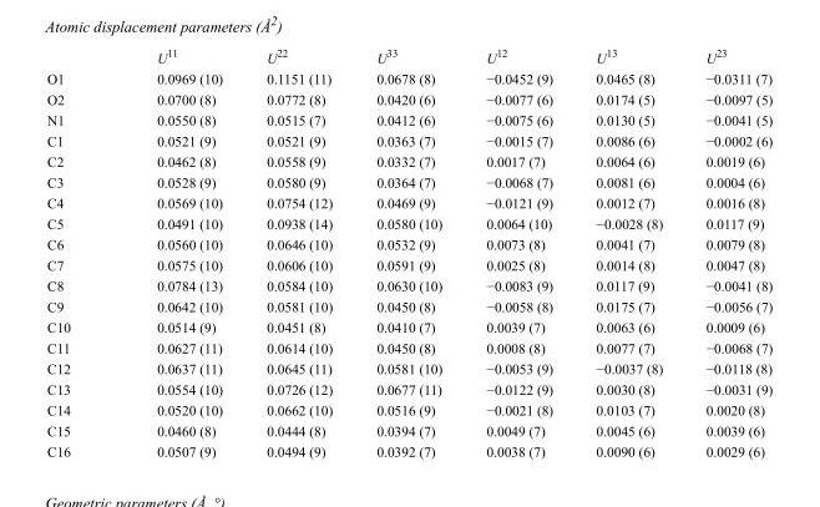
<table><thead><tr><td></td><td>U<sup>11</sup></td><td>U<sup>22</sup></td><td>U<sup>33</sup></td><td>U<sup>12</sup></td><td>U<sup>13</sup></td><td>U<sup>23</sup></td></tr></thead><tbody><tr><td>O1</td><td>0.0969 (10)</td><td>0.1151 (11)</td><td>0.0678 (8)</td><td>−0.0452 (9)</td><td>0.0465 (8)</td><td>−0.0311 (7)</td></tr><tr><td>O2</td><td>0.0700 (8)</td><td>0.0772 (8)</td><td>0.0420 (6)</td><td>−0.0077 (6)</td><td>0.0174 (5)</td><td>−0.0097 (5)</td></tr><tr><td>N1</td><td>0.0550 (8)</td><td>0.0515 (7)</td><td>0.0412 (6)</td><td>−0.0075 (6)</td><td>0.0130 (5)</td><td>−0.0041 (5)</td></tr><tr><td>C1</td><td>0.0521 (9)</td><td>0.0521 (9)</td><td>0.0363 (7)</td><td>−0.0015 (7)</td><td>0.0086 (6)</td><td>−0.0002 (6)</td></tr><tr><td>C2</td><td>0.0462 (8)</td><td>0.0558 (9)</td><td>0.0332 (7)</td><td>0.0017 (7)</td><td>0.0064 (6)</td><td>0.0019 (6)</td></tr><tr><td>C3</td><td>0.0528 (9)</td><td>0.0580 (9)</td><td>0.0364 (7)</td><td>−0.0068 (7)</td><td>0.0081 (6)</td><td>0.0004 (6)</td></tr><tr><td>C4</td><td>0.0569 (10)</td><td>0.0754 (12)</td><td>0.0469 (9)</td><td>−0.0121 (9)</td><td>0.0012 (7)</td><td>0.0016 (8)</td></tr><tr><td>C5</td><td>0.0491 (10)</td><td>0.0938 (14)</td><td>0.0580 (10)</td><td>0.0064 (10)</td><td>−0.0028 (8)</td><td>0.0117 (9)</td></tr><tr><td>C6</td><td>0.0560 (10)</td><td>0.0646 (10)</td><td>0.0532 (9)</td><td>0.0073 (8)</td><td>0.0041 (7)</td><td>0.0079 (8)</td></tr><tr><td>C7</td><td>0.0575 (10)</td><td>0.0606 (10)</td><td>0.0591 (9)</td><td>0.0025 (8)</td><td>0.0014 (8)</td><td>0.0047 (8)</td></tr><tr><td>C8</td><td>0.0784 (13)</td><td>0.0584 (10)</td><td>0.0630 (10)</td><td>−0.0083 (9)</td><td>0.0117 (9)</td><td>−0.0041 (8)</td></tr><tr><td>C9</td><td>0.0642 (10)</td><td>0.0581 (10)</td><td>0.0450 (8)</td><td>−0.0058 (8)</td><td>0.0175 (7)</td><td>−0.0056 (7)</td></tr><tr><td>C10</td><td>0.0514 (9)</td><td>0.0451 (8)</td><td>0.0410 (7)</td><td>0.0039 (7)</td><td>0.0063 (6)</td><td>0.0009 (6)</td></tr><tr><td>C11</td><td>0.0627 (11)</td><td>0.0614 (10)</td><td>0.0450 (8)</td><td>0.0008 (8)</td><td>0.0077 (7)</td><td>−0.0068 (7)</td></tr><tr><td>C12</td><td>0.0637 (11)</td><td>0.0645 (11)</td><td>0.0581 (10)</td><td>−0.0053 (9)</td><td>−0.0037 (8)</td><td>−0.0118 (8)</td></tr><tr><td>C13</td><td>0.0554 (10)</td><td>0.0726 (12)</td><td>0.0677 (11)</td><td>−0.0122 (9)</td><td>0.0030 (8)</td><td>−0.0031 (9)</td></tr><tr><td>C14</td><td>0.0520 (10)</td><td>0.0662 (10)</td><td>0.0516 (9)</td><td>−0.0021 (8)</td><td>0.0103 (7)</td><td>0.0020 (8)</td></tr><tr><td>C15</td><td>0.0460 (8)</td><td>0.0444 (8)</td><td>0.0394 (7)</td><td>0.0049 (7)</td><td>0.0045 (6)</td><td>0.0039 (6)</td></tr><tr><td>C16</td><td>0.0507 (9)</td><td>0.0494 (9)</td><td>0.0392 (7)</td><td>0.0038 (7)</td><td>0.0090 (6)</td><td>0.0029 (6)</td></tr></tbody></table>